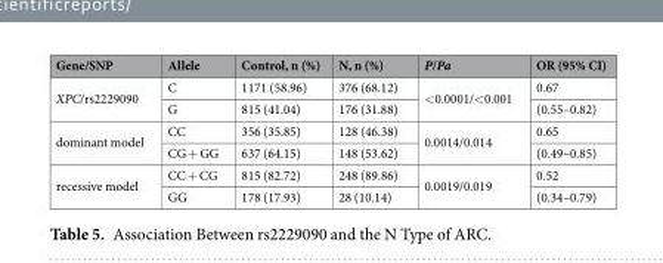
<table><thead><tr><td>Gene/SNP</td><td>Allele</td><td>Control, n (%)</td><td>N, n (%)</td><td>P/Pa</td><td>OR (95% CI)</td></tr></thead><tbody><tr><td rowspan="2">XPC/rs2229090</td><td>C</td><td>1171 (58.96)</td><td>376 (68.12)</td><td rowspan="2">&lt;0.0001/&lt;0.001</td><td>0.67</td></tr><tr><td>G</td><td>815 (41.04)</td><td>176 (31.88)</td><td>(0.55–0.82)</td></tr><tr><td rowspan="2">dominant model</td><td>CC</td><td>356 (35.85)</td><td>128 (46.38)</td><td rowspan="2">0.0014/0.014</td><td>0.65</td></tr><tr><td>CG + GG</td><td>637 (64.15)</td><td>148 (53.62)</td><td>(0.49–0.85)</td></tr><tr><td rowspan="2">recessive model</td><td>CC + CG</td><td>815 (82.72)</td><td>248 (89.86)</td><td rowspan="2">0.0019/0.019</td><td>0.52</td></tr><tr><td>GG</td><td>178 (17.93)</td><td>28 (10.14)</td><td>(0.34–0.79)</td></tr></tbody></table>